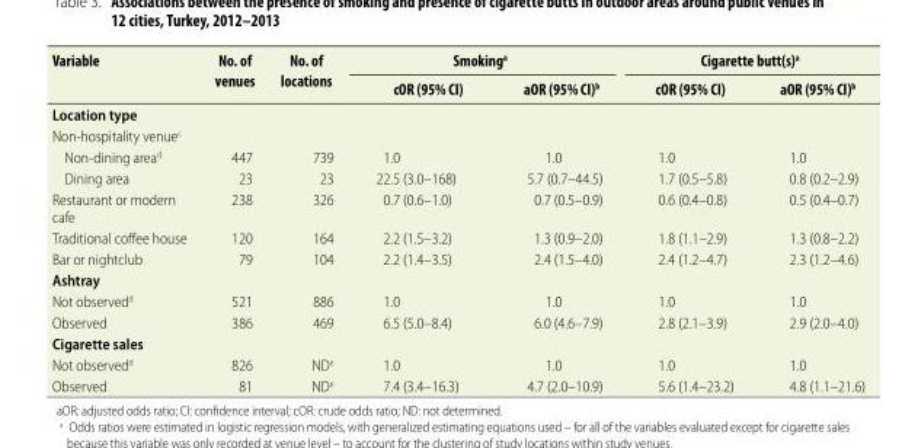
<table><thead><tr><td rowspan="2">Variable</td><td rowspan="2">No. of venues</td><td rowspan="2">No. of locations</td><td colspan="2">Smoking<sup>a</sup></td><td colspan="2">Cigarette butt(s)<sup>a</sup></td></tr><tr><td>cOR (95% CI)</td><td>aOR (95% CI)<sup>b</sup></td><td>cOR (95% CI)</td><td>aOR (95% CI)<sup>b</sup></td></tr></thead><tbody><tr><td colspan="7">Location type</td></tr><tr><td colspan="7">Non-hospitality venue<sup>c</sup></td></tr><tr><td>Non-dining area<sup>d</sup></td><td>447</td><td>739</td><td>1.0</td><td>1.0</td><td>1.0</td><td>1.0</td></tr><tr><td>Dining area</td><td>23</td><td>23</td><td>22.5 (3.0–168)</td><td>5.7 (0.7–44.5)</td><td>1.7 (0.5–5.8)</td><td>0.8 (0.2–2.9)</td></tr><tr><td>Restaurant or modern cafe</td><td>238</td><td>326</td><td>0.7 (0.6–1.0)</td><td>0.7 (0.5–0.9)</td><td>0.6 (0.4–0.8)</td><td>0.5 (0.4–0.7)</td></tr><tr><td>Traditional coffee house</td><td>120</td><td>164</td><td>2.2 (1.5–3.2)</td><td>1.3 (0.9–2.0)</td><td>1.8 (1.1–2.9)</td><td>1.3 (0.8–2.2)</td></tr><tr><td>Bar or nightclub</td><td>79</td><td>104</td><td>2.2 (1.4–3.5)</td><td>2.4 (1.5–4.0)</td><td>2.4 (1.2–4.7)</td><td>2.3 (1.2–4.6)</td></tr><tr><td colspan="7">Ashtray</td></tr><tr><td>Not observed<sup>d</sup></td><td>521</td><td>886</td><td>1.0</td><td>1.0</td><td>1.0</td><td>1.0</td></tr><tr><td>Observed</td><td>386</td><td>469</td><td>6.5 (5.0–8.4)</td><td>6.0 (4.6–7.9)</td><td>2.8 (2.1–3.9)</td><td>2.9 (2.0–4.0)</td></tr><tr><td colspan="7">Cigarette sales</td></tr><tr><td>Not observed<sup>d</sup></td><td>826</td><td>ND<sup>e</sup></td><td>1.0</td><td>1.0</td><td>1.0</td><td>1.0</td></tr><tr><td>Observed</td><td>81</td><td>ND<sup>e</sup></td><td>7.4 (3.4–16.3)</td><td>4.7 (2.0–10.9)</td><td>5.6 (1.4–23.2)</td><td>4.8 (1.1–21.6)</td></tr></tbody></table>